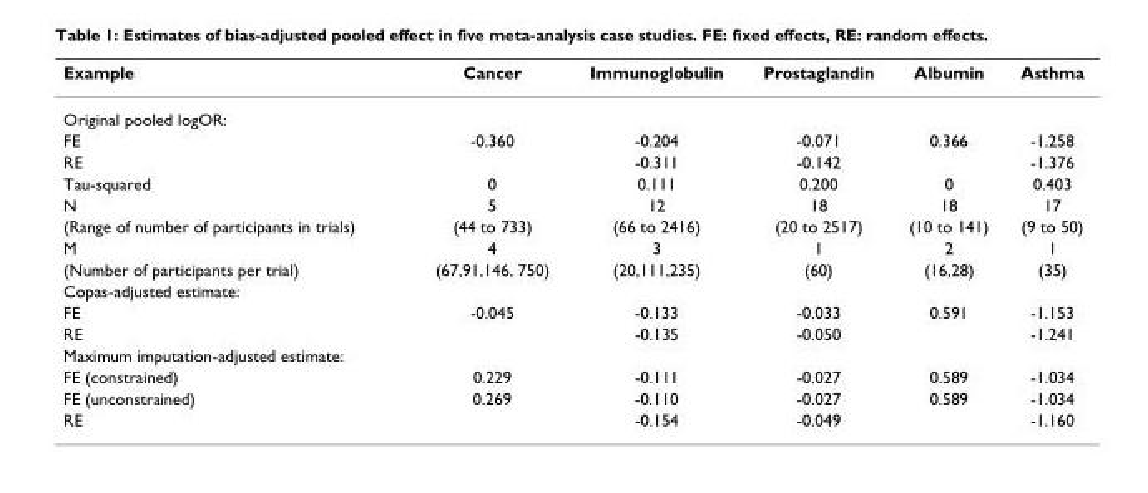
<table><thead><tr><td>Example</td><td>Cancer</td><td>Immunoglobulin</td><td>Prostaglandin</td><td>Albumin</td><td>Asthma</td></tr></thead><tbody><tr><td colspan="6">Original pooled logOR:</td></tr><tr><td>FE</td><td>-0.360</td><td>-0.204</td><td>-0.071</td><td>0.366</td><td>-1.258</td></tr><tr><td>RE</td><td></td><td>-0.311</td><td>-0.142</td><td></td><td>-1.376</td></tr><tr><td>Tau-squared</td><td>0</td><td>0.111</td><td>0.200</td><td>0</td><td>0.403</td></tr><tr><td>N</td><td>5</td><td>12</td><td>18</td><td>18</td><td>17</td></tr><tr><td>(Range of number of participants in trials)</td><td>(44 to 733)</td><td>(66 to 2416)</td><td>(20 to 2517)</td><td>(10 to 141)</td><td>(9 to 50)</td></tr><tr><td>M</td><td>4</td><td>3</td><td>1</td><td>2</td><td>1</td></tr><tr><td>(Number of participants per trial)</td><td>(67,91,146, 750)</td><td>(20,111,235)</td><td>(60)</td><td>(16,28)</td><td>(35)</td></tr><tr><td colspan="6">Copas-adjusted estimate:</td></tr><tr><td>FE</td><td>-0.045</td><td>-0.133</td><td>-0.033</td><td>0.591</td><td>-1.153</td></tr><tr><td>RE</td><td></td><td>-0.135</td><td>-0.050</td><td></td><td>-1.241</td></tr><tr><td colspan="6">Maximum imputation-adjusted estimate:</td></tr><tr><td>FE (constrained)</td><td>0.229</td><td>-0.111</td><td>-0.027</td><td>0.589</td><td>-1.034</td></tr><tr><td>FE (unconstrained)</td><td>0.269</td><td>-0.110</td><td>-0.027</td><td>0.589</td><td>-1.034</td></tr><tr><td>RE</td><td></td><td>-0.154</td><td>-0.049</td><td></td><td>-1.160</td></tr></tbody></table>